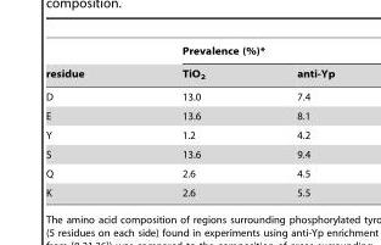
<table><thead><tr><td rowspan="2">residue</td><td colspan="2">Prevalence (%)*</td></tr><tr><td>TiO<sub>2</sub></td><td>anti-Yp</td></tr></thead><tbody><tr><td>D</td><td>13.0</td><td>7.4</td></tr><tr><td>E</td><td>13.6</td><td>8.1</td></tr><tr><td>Y</td><td>1.2</td><td>4.2</td></tr><tr><td>S</td><td>13.6</td><td>9.4</td></tr><tr><td>Q</td><td>2.6</td><td>4.5</td></tr><tr><td>K</td><td>2.6</td><td>5.5</td></tr></tbody></table>